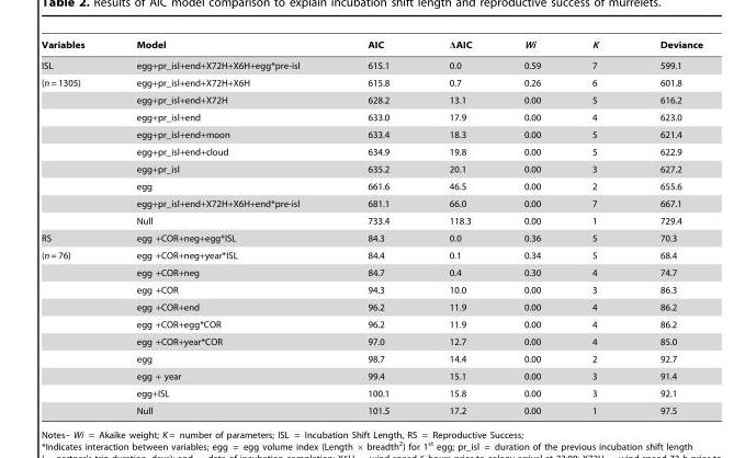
<table><thead><tr><td>Variables</td><td>Model</td><td>AIC</td><td>ΔAIC</td><td>Wi</td><td>K</td><td>Deviance</td></tr></thead><tbody><tr><td>ISL</td><td>egg+pr_isl+end+X72H+X6H+egg*pre-isl</td><td>615.1</td><td>0.0</td><td>0.59</td><td>7</td><td>599.1</td></tr><tr><td rowspan="9">(n = 1305)</td><td>egg+pr_isl+end+X72H+X6H</td><td>615.8</td><td>0.7</td><td>0.26</td><td>6</td><td>601.8</td></tr><tr><td>egg+pr_isl+end+X72H</td><td>628.2</td><td>13.1</td><td>0.00</td><td>5</td><td>616.2</td></tr><tr><td>egg+pr_isl+end</td><td>633.0</td><td>17.9</td><td>0.00</td><td>4</td><td>623.0</td></tr><tr><td>egg+pr_isl+end+moon</td><td>633.4</td><td>18.3</td><td>0.00</td><td>5</td><td>621.4</td></tr><tr><td>egg+pr_isl+end+cloud</td><td>634.9</td><td>19.8</td><td>0.00</td><td>5</td><td>622.9</td></tr><tr><td>egg+pr_isl</td><td>635.2</td><td>20.1</td><td>0.00</td><td>3</td><td>627.2</td></tr><tr><td>egg</td><td>661.6</td><td>46.5</td><td>0.00</td><td>2</td><td>655.6</td></tr><tr><td>egg+pr_isl+end+X72H+X6H+end*pre-isl</td><td>681.1</td><td>66.0</td><td>0.00</td><td>7</td><td>667.1</td></tr><tr><td>Null</td><td>733.4</td><td>118.3</td><td>0.00</td><td>1</td><td>729.4</td></tr><tr><td>RS</td><td>egg +COR+neg+egg*ISL</td><td>84.3</td><td>0.0</td><td>0.36</td><td>5</td><td>70.3</td></tr><tr><td rowspan="10">(n = 76)</td><td>egg +COR+neg+year*ISL</td><td>84.4</td><td>0.1</td><td>0.34</td><td>5</td><td>68.4</td></tr><tr><td>egg +COR+neg</td><td>84.7</td><td>0.4</td><td>0.30</td><td>4</td><td>74.7</td></tr><tr><td>egg +COR</td><td>94.3</td><td>10.0</td><td>0.00</td><td>3</td><td>86.3</td></tr><tr><td>egg +COR+end</td><td>96.2</td><td>11.9</td><td>0.00</td><td>4</td><td>86.2</td></tr><tr><td>egg +COR+egg*COR</td><td>96.2</td><td>11.9</td><td>0.00</td><td>4</td><td>86.2</td></tr><tr><td>egg +COR+year*COR</td><td>97.0</td><td>12.7</td><td>0.00</td><td>4</td><td>85.0</td></tr><tr><td>egg</td><td>98.7</td><td>14.4</td><td>0.00</td><td>2</td><td>92.7</td></tr><tr><td>egg + year</td><td>99.4</td><td>15.1</td><td>0.00</td><td>3</td><td>91.4</td></tr><tr><td>egg+ISL</td><td>100.1</td><td>15.8</td><td>0.00</td><td>3</td><td>92.1</td></tr><tr><td>Null</td><td>101.5</td><td>17.2</td><td>0.00</td><td>1</td><td>97.5</td></tr></tbody></table>